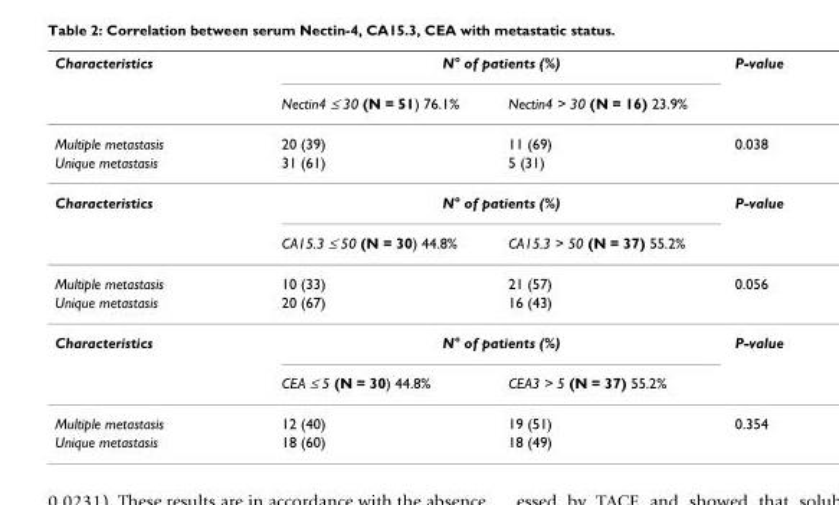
<table><thead><tr><td rowspan="2">Characteristics</td><td colspan="2">N° of patients (%)</td><td rowspan="2">P-value</td></tr><tr><td>Nectin4 ≤ 30 (N = 51) 76.1%</td><td>Nectin4 &gt; 30 (N = 16) 23.9%</td></tr></thead><tbody><tr><td>Multiple metastasis</td><td>20 (39)</td><td>11 (69)</td><td>0.038</td></tr><tr><td>Unique metastasis</td><td>31 (61)</td><td>5 (31)</td><td></td></tr><tr><td rowspan="2">Characteristics</td><td colspan="2">N° of patients (%)</td><td>P-value</td></tr><tr><td>CA15.3 ≤ 50 (N = 30) 44.8%</td><td>CA15.3 &gt; 50 (N = 37) 55.2%</td><td></td></tr><tr><td>Multiple metastasis</td><td>10 (33)</td><td>21 (57)</td><td>0.056</td></tr><tr><td>Unique metastasis</td><td>20 (67)</td><td>16 (43)</td><td></td></tr><tr><td rowspan="2">Characteristics</td><td colspan="2">N° of patients (%)</td><td>P-value</td></tr><tr><td>CEA ≤ 5 (N = 30) 44.8%</td><td>CEA3 &gt; 5 (N = 37) 55.2%</td><td></td></tr><tr><td>Multiple metastasis</td><td>12 (40)</td><td>19 (51)</td><td>0.354</td></tr><tr><td>Unique metastasis</td><td>18 (60)</td><td>18 (49)</td><td></td></tr></tbody></table>